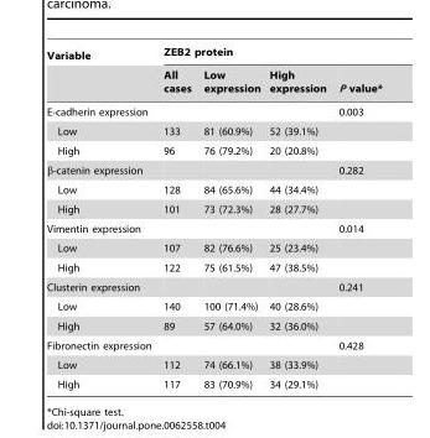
<table><thead><tr><td rowspan="2">Variable</td><td colspan="4">ZEB2 protein</td></tr><tr><td>All cases</td><td>Low expression</td><td>High expression</td><td>P value*</td></tr></thead><tbody><tr><td>E-cadherin expression</td><td></td><td></td><td></td><td>0.003</td></tr><tr><td>Low</td><td>133</td><td>81 (60.9%)</td><td>52 (39.1%)</td><td></td></tr><tr><td>High</td><td>96</td><td>76 (79.2%)</td><td>20 (20.8%)</td><td></td></tr><tr><td>β-catenin expression</td><td></td><td></td><td></td><td>0.282</td></tr><tr><td>Low</td><td>128</td><td>84 (65.6%)</td><td>44 (34.4%)</td><td></td></tr><tr><td>High</td><td>101</td><td>73 (72.3%)</td><td>28 (27.7%)</td><td></td></tr><tr><td>Vimentin expression</td><td></td><td></td><td></td><td>0.014</td></tr><tr><td>Low</td><td>107</td><td>82 (76.6%)</td><td>25 (23.4%)</td><td></td></tr><tr><td>High</td><td>122</td><td>75 (61.5%)</td><td>47 (38.5%)</td><td></td></tr><tr><td>Clusterin expression</td><td></td><td></td><td></td><td>0.241</td></tr><tr><td>Low</td><td>140</td><td>100 (71.4%)</td><td>40 (28.6%)</td><td></td></tr><tr><td>High</td><td>89</td><td>57 (64.0%)</td><td>32 (36.0%)</td><td></td></tr><tr><td>Fibronectin expression</td><td></td><td></td><td></td><td>0.428</td></tr><tr><td>Low</td><td>112</td><td>74 (66.1%)</td><td>38 (33.9%)</td><td></td></tr><tr><td>High</td><td>117</td><td>83 (70.9%)</td><td>34 (29.1%)</td><td></td></tr></tbody></table>